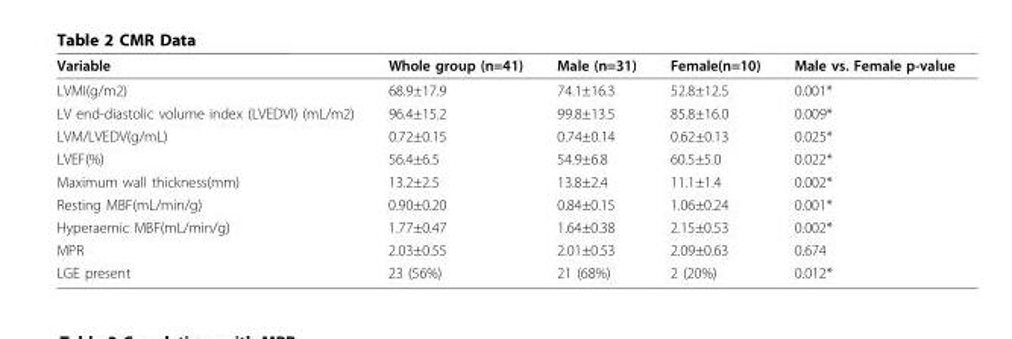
<table><thead><tr><td>Variable</td><td>Whole group (n=41)</td><td>Male (n=31)</td><td>Female(n=10)</td><td>Male vs. Female p-value</td></tr></thead><tbody><tr><td>LVMI(g/m2)</td><td>68.9±17.9</td><td>74.1±16.3</td><td>52.8±12.5</td><td>0.001*</td></tr><tr><td>LV end-diastolic volume index (LVEDVI) (mL/m2)</td><td>96.4±15.2</td><td>99.8±13.5</td><td>85.8±16.0</td><td>0.009*</td></tr><tr><td>LVM/LVEDV(g/mL)</td><td>0.72±0.15</td><td>0.74±0.14</td><td>0.62±0.13</td><td>0.025*</td></tr><tr><td>LVEF(%)</td><td>56.4±6.5</td><td>54.9±6.8</td><td>60.5±5.0</td><td>0.022*</td></tr><tr><td>Maximum wall thickness(mm)</td><td>13.2±2.5</td><td>13.8±2.4</td><td>11.1±1.4</td><td>0.002*</td></tr><tr><td>Resting MBF(mL/min/g)</td><td>0.90±0.20</td><td>0.84±0.15</td><td>1.06±0.24</td><td>0.001*</td></tr><tr><td>Hyperaemic MBF(mL/min/g)</td><td>1.77±0.47</td><td>1.64±0.38</td><td>2.15±0.53</td><td>0.002*</td></tr><tr><td>MPR</td><td>2.03±0.55</td><td>2.01±0.53</td><td>2.09±0.63</td><td>0.674</td></tr><tr><td>LGE present</td><td>23 (56%)</td><td>21 (68%)</td><td>2 (20%)</td><td>0.012*</td></tr></tbody></table>